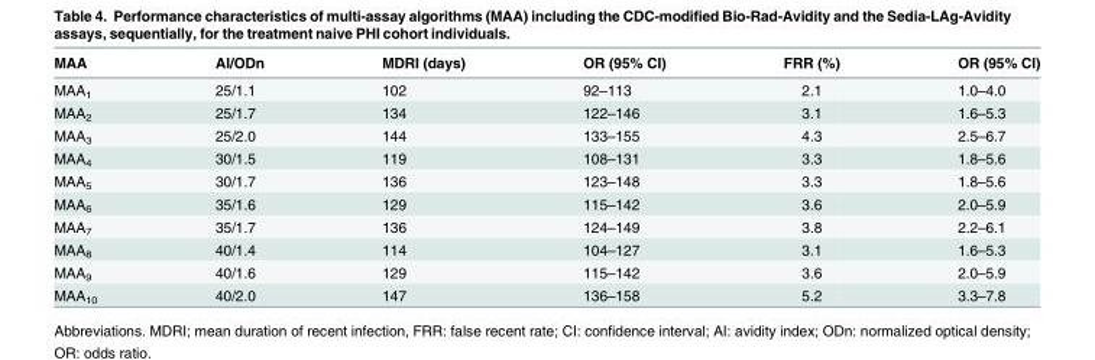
<table><thead><tr><td>MAA</td><td>AI/ODn</td><td>MDRI (days)</td><td>OR (95% CI)</td><td>FRR (%)</td><td>OR (95% CI)</td></tr></thead><tbody><tr><td>MAA<sub>1</sub></td><td>25/1.1</td><td>102</td><td>92–113</td><td>2.1</td><td>1.0–4.0</td></tr><tr><td>MAA<sub>2</sub></td><td>25/1.7</td><td>134</td><td>122–146</td><td>3.1</td><td>1.6–5.3</td></tr><tr><td>MAA<sub>3</sub></td><td>25/2.0</td><td>144</td><td>133–155</td><td>4.3</td><td>2.5–6.7</td></tr><tr><td>MAA<sub>4</sub></td><td>30/1.5</td><td>119</td><td>108–131</td><td>3.3</td><td>1.8–5.6</td></tr><tr><td>MAA<sub>5</sub></td><td>30/1.7</td><td>136</td><td>123–148</td><td>3.3</td><td>1.8–5.6</td></tr><tr><td>MAA<sub>6</sub></td><td>35/1.6</td><td>129</td><td>115–142</td><td>3.6</td><td>2.0–5.9</td></tr><tr><td>MAA<sub>7</sub></td><td>35/1.7</td><td>136</td><td>124–149</td><td>3.8</td><td>2.2–6.1</td></tr><tr><td>MAA<sub>8</sub></td><td>40/1.4</td><td>114</td><td>104–127</td><td>3.1</td><td>1.6–5.3</td></tr><tr><td>MAA<sub>9</sub></td><td>40/1.6</td><td>129</td><td>115–142</td><td>3.6</td><td>2.0–5.9</td></tr><tr><td>MAA<sub>10</sub></td><td>40/2.0</td><td>147</td><td>136–158</td><td>5.2</td><td>3.3–7.8</td></tr></tbody></table>